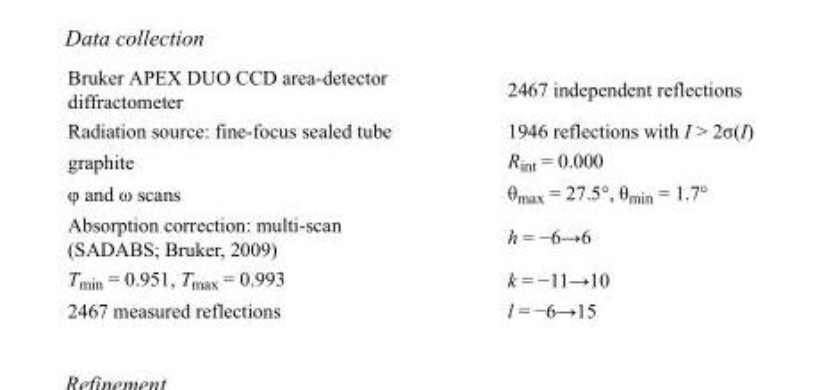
<table><tbody><tr><td>Bruker APEX DUO CCD area-detector diffractometer</td><td>2467 independent reflections</td></tr><tr><td>Radiation source: fine-focus sealed tube</td><td>1946 reflections with I &gt; 2σ(I)</td></tr><tr><td>graphite</td><td>Rint = 0.000</td></tr><tr><td>φ and ω scans</td><td>θ<sub>max</sub> = 27.5°, θ<sub>min</sub> = 1.7°</td></tr><tr><td>Absorption correction: multi-scan (SADABS; Bruker, 2009)</td><td>h = −6→6</td></tr><tr><td>T<sub>min</sub> = 0.951, T<sub>max</sub> = 0.993</td><td>k = −11→10</td></tr><tr><td>2467 measured reflections</td><td>l = −6→15</td></tr></tbody></table>